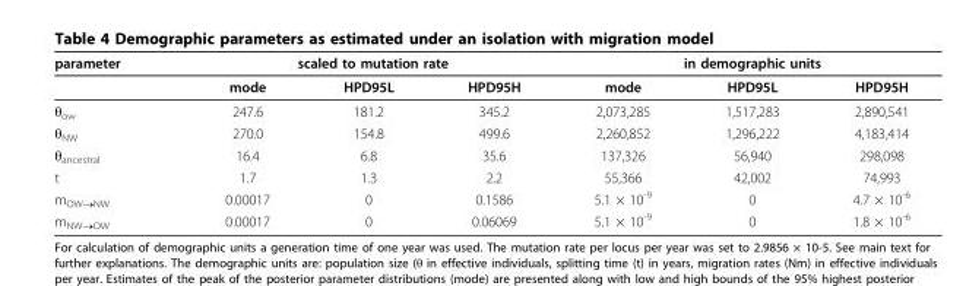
<table><thead><tr><td rowspan="2">parameter</td><td colspan="3">scaled to mutation rate</td><td colspan="3">in demographic units</td></tr><tr><td>mode</td><td>HPD95L</td><td>HPD95H</td><td>mode</td><td>HPD95L</td><td>HPD95H</td></tr></thead><tbody><tr><td>θ<sub>ow</sub></td><td>247.6</td><td>181.2</td><td>345.2</td><td>2,073,285</td><td>1,517,283</td><td>2,890,541</td></tr><tr><td>θ<sub>NW</sub></td><td>270.0</td><td>154.8</td><td>499.6</td><td>2,260,852</td><td>1,296,222</td><td>4,183,414</td></tr><tr><td>θ<sub>ancestral</sub></td><td>16.4</td><td>6.8</td><td>35.6</td><td>137,326</td><td>56,940</td><td>298,098</td></tr><tr><td>t</td><td>1.7</td><td>1.3</td><td>2.2</td><td>55,366</td><td>42,002</td><td>74,993</td></tr><tr><td>m<sub>OW→NW</sub></td><td>0.00017</td><td>0</td><td>0.1586</td><td>5.1 × 10<sup>-9</sup></td><td>0</td><td>4.7 × 10<sup>-6</sup></td></tr><tr><td>m<sub>NW→OW</sub></td><td>0.00017</td><td>0</td><td>0.06069</td><td>5.1 × 10<sup>-9</sup></td><td>0</td><td>1.8 × 10<sup>-6</sup></td></tr></tbody></table>